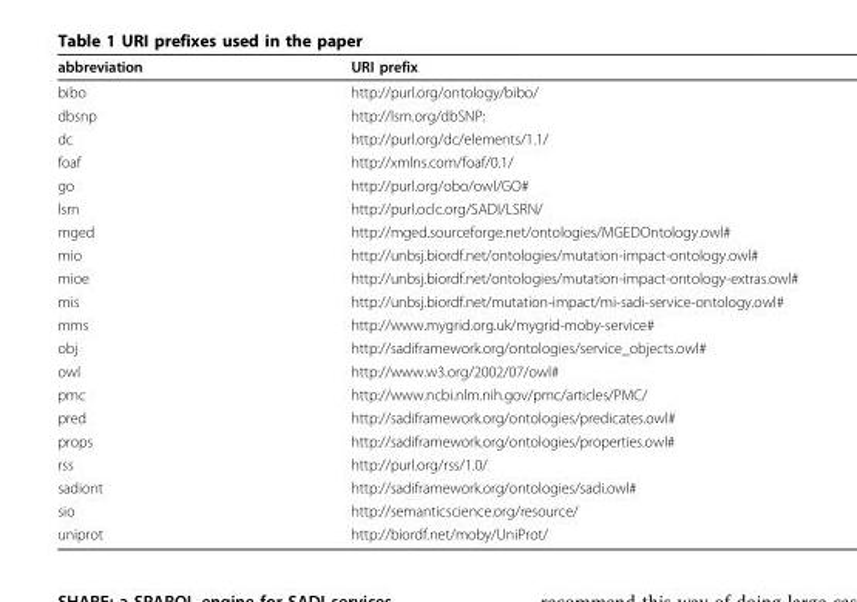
<table><thead><tr><td>abbreviation</td><td>URI prefix</td></tr></thead><tbody><tr><td>bibo</td><td>http://purl.org/ontology/bibo/</td></tr><tr><td>dbsnp</td><td>http://lsrn.org/dbSNP:</td></tr><tr><td>dc</td><td>http://purl.org/dc/elements/1.1/</td></tr><tr><td>foaf</td><td>http://xmlns.com/foaf/0.1/</td></tr><tr><td>go</td><td>http://purl.org/obo/owl/GO#</td></tr><tr><td>lsrn</td><td>http://purl.oclc.org/SADI/LSRN/</td></tr><tr><td>mged</td><td>http://mged.sourceforge.net/ontologies/MGEDOntology.owl#</td></tr><tr><td>mio</td><td>http://unbsj.biordf.net/ontologies/mutation-impact-ontology.owl#</td></tr><tr><td>mioe</td><td>http://unbsj.biordf.net/ontologies/mutation-impact-ontology-extras.owl#</td></tr><tr><td>mis</td><td>http://unbsj.biordf.net/mutation-impact/mi-sadi-service-ontology.owl#</td></tr><tr><td>mms</td><td>http://www.mygrid.org.uk/mygrid-moby-service#</td></tr><tr><td>obj</td><td>http://sadiframework.org/ontologies/service_objects.owl#</td></tr><tr><td>owl</td><td>http://www.w3.org/2002/07/owl#</td></tr><tr><td>pmc</td><td>http://www.ncbi.nlm.nih.gov/pmc/articles/PMC/</td></tr><tr><td>pred</td><td>http://sadiframework.org/ontologies/predicates.owl#</td></tr><tr><td>props</td><td>http://sadiframework.org/ontologies/properties.owl#</td></tr><tr><td>rss</td><td>http://purl.org/rss/1.0/</td></tr><tr><td>sadiont</td><td>http://sadiframework.org/ontologies/sadi.owl#</td></tr><tr><td>sio</td><td>http://semanticscience.org/resource/</td></tr><tr><td>uniprot</td><td>http://biordf.net/moby/UniProt/</td></tr></tbody></table>